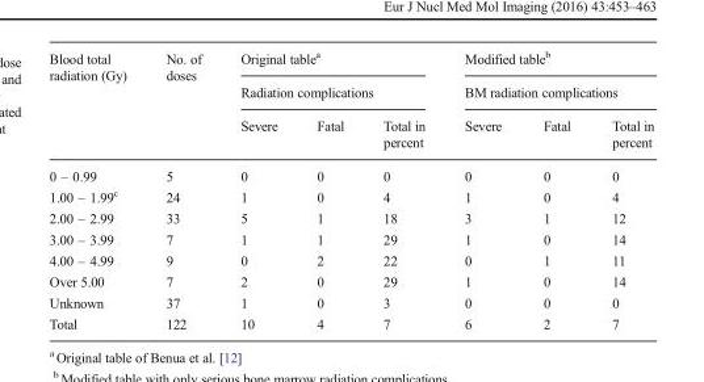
<table><thead><tr><td rowspan="3">Blood total radiation (Gy)</td><td rowspan="3">No. of doses</td><td rowspan="2" colspan="3">Original table<sup>a</sup> Radiation complications</td><td rowspan="2" colspan="3">Modified table<sup>b</sup> BM radiation complications</td></tr><tr></tr><tr><td>Severe</td><td>Fatal</td><td>Total in percent</td><td>Severe</td><td>Fatal</td><td>Total in percent</td></tr></thead><tbody><tr><td>0 – 0.99</td><td>5</td><td>0</td><td>0</td><td>0</td><td>0</td><td>0</td><td>0</td></tr><tr><td>1.00 – 1.99<sup>c</sup></td><td>24</td><td>1</td><td>0</td><td>4</td><td>1</td><td>0</td><td>4</td></tr><tr><td>2.00 – 2.99</td><td>33</td><td>5</td><td>1</td><td>18</td><td>3</td><td>1</td><td>12</td></tr><tr><td>3.00 – 3.99</td><td>7</td><td>1</td><td>1</td><td>29</td><td>1</td><td>0</td><td>14</td></tr><tr><td>4.00 – 4.99</td><td>9</td><td>0</td><td>2</td><td>22</td><td>0</td><td>1</td><td>11</td></tr><tr><td>Over 5.00</td><td>7</td><td>2</td><td>0</td><td>29</td><td>1</td><td>0</td><td>14</td></tr><tr><td>Unknown</td><td>37</td><td>1</td><td>0</td><td>3</td><td>0</td><td>0</td><td>0</td></tr><tr><td>Total</td><td>122</td><td>10</td><td>4</td><td>7</td><td>6</td><td>2</td><td>7</td></tr></tbody></table>